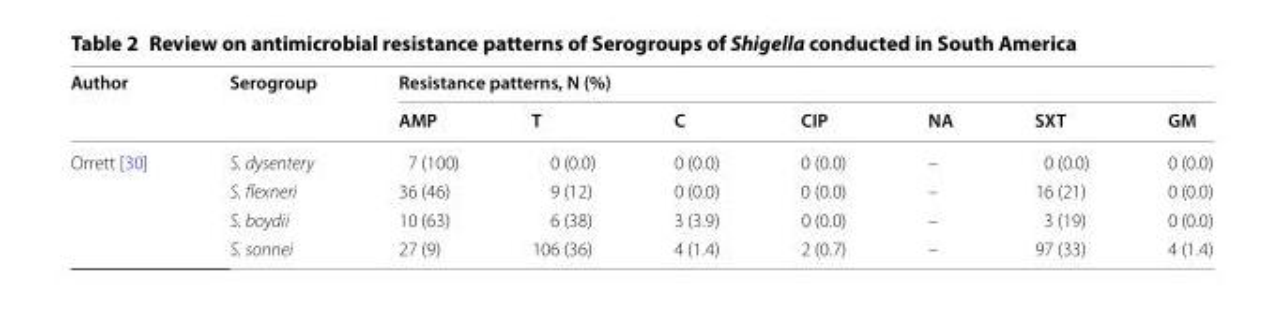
<table><thead><tr><td rowspan="2">Author</td><td rowspan="2">Serogroup</td><td colspan="7">Resistance patterns, N (%)</td></tr><tr><td>AMP</td><td>T</td><td>C</td><td>CIP</td><td>NA</td><td>SXT</td><td>GM</td></tr></thead><tbody><tr><td rowspan="4">Orrett [30]</td><td>S. dysentery</td><td>7 (100)</td><td>0 (0.0)</td><td>0 (0.0)</td><td>0 (0.0)</td><td>–</td><td>0 (0.0)</td><td>0 (0.0)</td></tr><tr><td>S. flexneri</td><td>36 (46)</td><td>9 (12)</td><td>0 (0.0)</td><td>0 (0.0)</td><td>–</td><td>16 (21)</td><td>0 (0.0)</td></tr><tr><td>S. boydii</td><td>10 (63)</td><td>6 (38)</td><td>3 (3.9)</td><td>0 (0.0)</td><td>–</td><td>3 (19)</td><td>0 (0.0)</td></tr><tr><td>S. sonnei</td><td>27 (9)</td><td>106 (36)</td><td>4 (1.4)</td><td>2 (0.7)</td><td>–</td><td>97 (33)</td><td>4 (1.4)</td></tr></tbody></table>